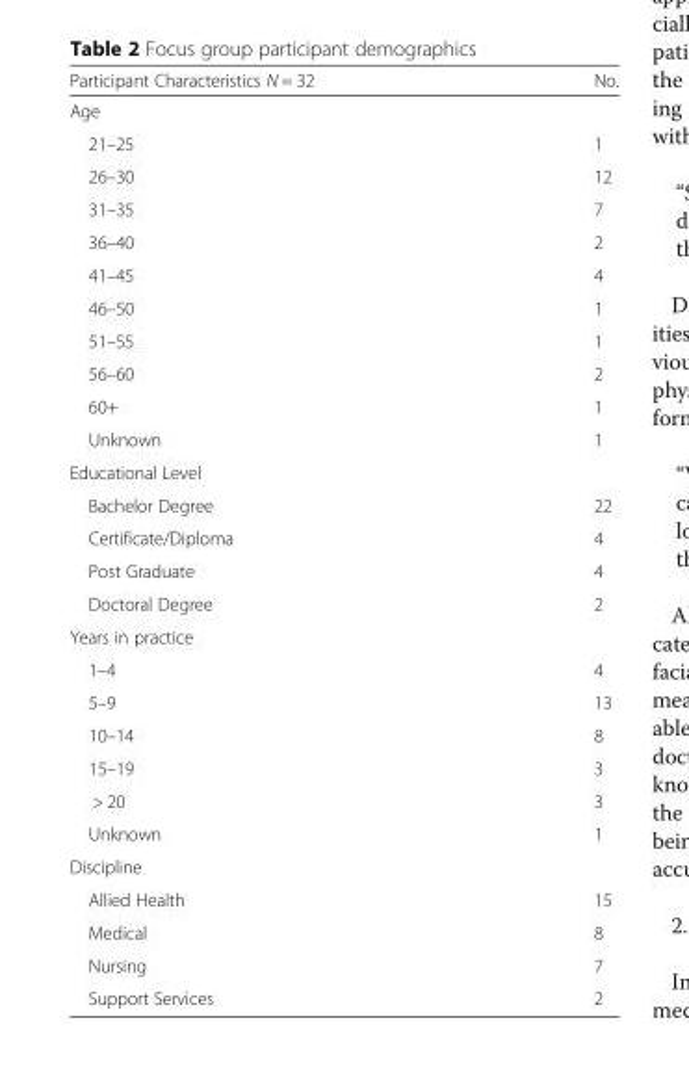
<table><thead><tr><td>Participant Characteristics N = 32</td><td>No.</td></tr></thead><tbody><tr><td colspan="2">Age</td></tr><tr><td>21–25</td><td>1</td></tr><tr><td>26–30</td><td>12</td></tr><tr><td>31–35</td><td>7</td></tr><tr><td>36–40</td><td>2</td></tr><tr><td>41–45</td><td>4</td></tr><tr><td>46–50</td><td>1</td></tr><tr><td>51–55</td><td>1</td></tr><tr><td>56–60</td><td>2</td></tr><tr><td>60+</td><td>1</td></tr><tr><td>Unknown</td><td>1</td></tr><tr><td colspan="2">Educational Level</td></tr><tr><td>Bachelor Degree</td><td>22</td></tr><tr><td>Certificate/Diploma</td><td>4</td></tr><tr><td>Post Graduate</td><td>4</td></tr><tr><td>Doctoral Degree</td><td>2</td></tr><tr><td colspan="2">Years in practice</td></tr><tr><td>1–4</td><td>4</td></tr><tr><td>5–9</td><td>13</td></tr><tr><td>10–14</td><td>8</td></tr><tr><td>15–19</td><td>3</td></tr><tr><td>&gt; 20</td><td>3</td></tr><tr><td>Unknown</td><td>1</td></tr><tr><td colspan="2">Discipline</td></tr><tr><td>Allied Health</td><td>15</td></tr><tr><td>Medical</td><td>8</td></tr><tr><td>Nursing</td><td>7</td></tr><tr><td>Support Services</td><td>2</td></tr></tbody></table>